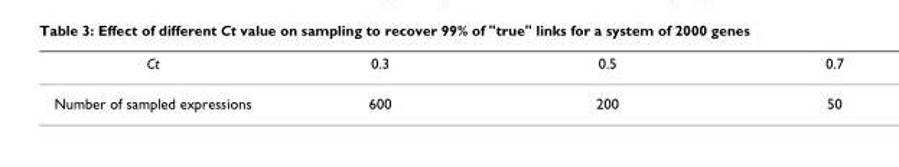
<table><thead><tr><td>Ct</td><td>0.3</td><td>0.5</td><td>0.7</td></tr></thead><tbody><tr><td>Number of sampled expressions</td><td>600</td><td>200</td><td>50</td></tr></tbody></table>